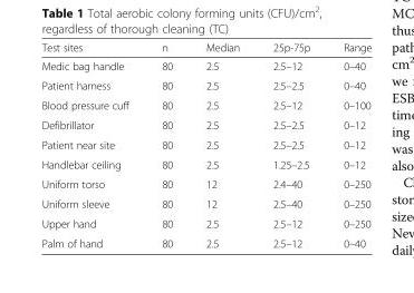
<table><thead><tr><td>Test sites</td><td>n</td><td>Median</td><td>25p-75p</td><td>Range</td></tr></thead><tbody><tr><td>Medic bag handle</td><td>80</td><td>2.5</td><td>2.5–12</td><td>0–40</td></tr><tr><td>Patient harness</td><td>80</td><td>2.5</td><td>2.5–2.5</td><td>0–40</td></tr><tr><td>Blood pressure cuff</td><td>80</td><td>2.5</td><td>2.5–12</td><td>0–100</td></tr><tr><td>Defibrillator</td><td>80</td><td>2.5</td><td>2.5–2.5</td><td>0–12</td></tr><tr><td>Patient near site</td><td>80</td><td>2.5</td><td>2.5–2.5</td><td>0–12</td></tr><tr><td>Handlebar ceiling</td><td>80</td><td>2.5</td><td>1.25–2.5</td><td>0–12</td></tr><tr><td>Uniform torso</td><td>80</td><td>12</td><td>2.4–40</td><td>0–250</td></tr><tr><td>Uniform sleeve</td><td>80</td><td>12</td><td>2.5–40</td><td>0–250</td></tr><tr><td>Upper hand</td><td>80</td><td>2.5</td><td>2.5–12</td><td>0–250</td></tr><tr><td>Palm of hand</td><td>80</td><td>2.5</td><td>2.5–12</td><td>0–40</td></tr></tbody></table>